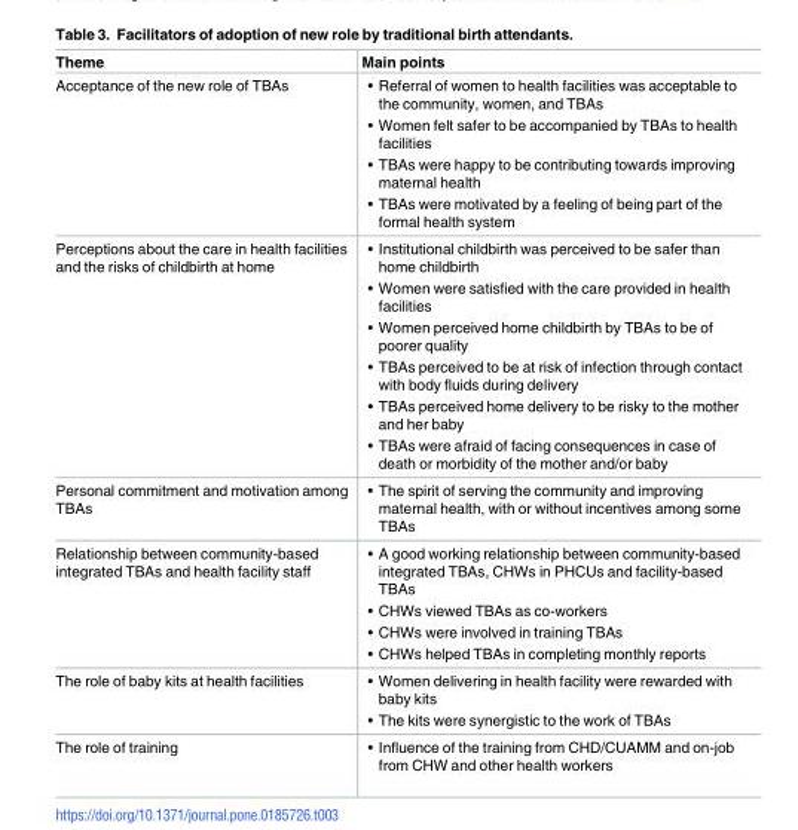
<table><thead><tr><td>Theme</td><td>Main points</td></tr></thead><tbody><tr><td>Acceptance of the new role of TBAs</td><td>• Referral of women to health facilities was acceptable to the community, women, and TBAs • Women felt safer to be accompanied by TBAs to health facilities • TBAs were happy to be contributing towards improving maternal health • TBAs were motivated by a feeling of being part of the formal health system</td></tr><tr><td>Perceptions about the care in health facilities and the risks of childbirth at home</td><td>• Institutional childbirth was perceived to be safer than home childbirth • Women were satisfied with the care provided in health facilities • Women perceived home childbirth by TBAs to be of poorer quality • TBAs perceived to be at risk of infection through contact with body fluids during delivery • TBAs perceived home delivery to be risky to the mother and her baby • TBAs were afraid of facing consequences in case of death or morbidity of the mother and/or baby</td></tr><tr><td>Personal commitment and motivation among TBAs</td><td>• The spirit of serving the community and improving maternal health, with or without incentives among some TBAs</td></tr><tr><td>Relationship between community-based integrated TBAs and health facility staff</td><td>• A good working relationship between community-based integrated TBAs, CHWs in PHCUs and facility-based TBAs • CHWs viewed TBAs as co-workers • CHWs were involved in training TBAs • CHWs helped TBAs in completing monthly reports</td></tr><tr><td>The role of baby kits at health facilities</td><td>• Women delivering in health facility were rewarded with baby kits • The kits were synergistic to the work of TBAs</td></tr><tr><td>The role of training</td><td>• Influence of the training from CHD/CUAMM and on-job from CHW and other health workers</td></tr></tbody></table>